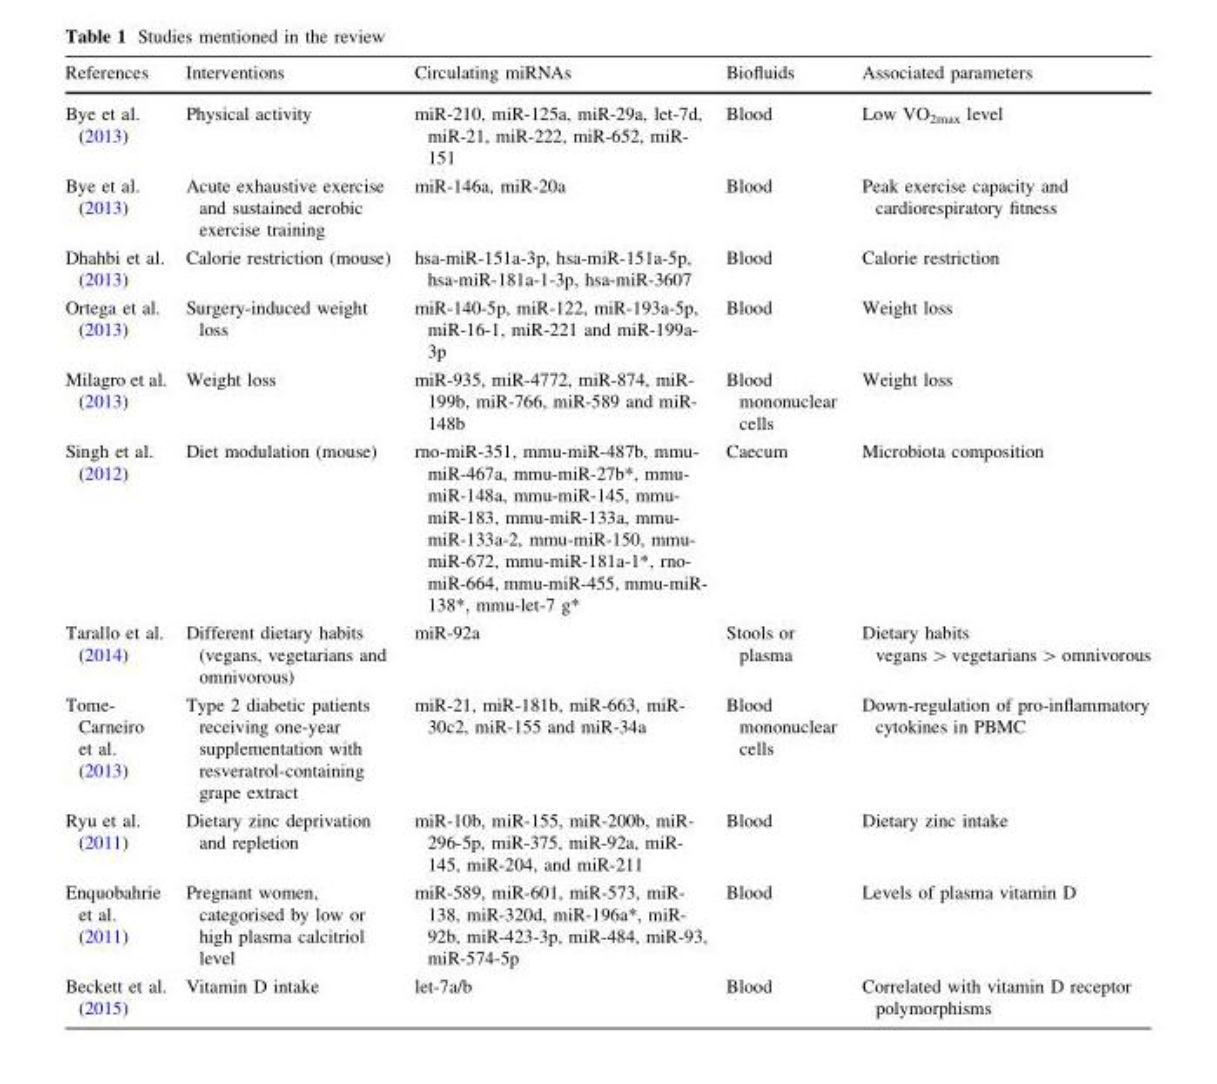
<table><thead><tr><td>References</td><td>Interventions</td><td>Circulating miRNAs</td><td>Biofluids</td><td>Associated parameters</td></tr></thead><tbody><tr><td>Bye et al. (2013)</td><td>Physical activity</td><td>miR-210, miR-125a, miR-29a, let-7d, miR-21, miR-222, miR-652, miR- 151</td><td>Blood</td><td>Low VO<sub>2max</sub> level</td></tr><tr><td>Bye et al. (2013)</td><td>Acute exhaustive exercise and sustained aerobic exercise training</td><td>miR-146a, miR-20a</td><td>Blood</td><td>Peak exercise capacity and cardiorespiratory fitness</td></tr><tr><td>Dhahbi et al. (2013)</td><td>Calorie restriction (mouse)</td><td>hsa-miR-151a-3p, hsa-miR-151a-5p, hsa-miR-181a-1-3p, hsa-miR-3607</td><td>Blood</td><td>Calorie restriction</td></tr><tr><td>Ortega et al. (2013)</td><td>Surgery-induced weight loss</td><td>miR-140-5p, miR-122, miR-193a-5p, miR-16-1, miR-221 and miR-199a- 3p</td><td>Blood</td><td>Weight loss</td></tr><tr><td>Milagro et al. (2013)</td><td>Weight loss</td><td>miR-935, miR-4772, miR-874, miR- 199b, miR-766, miR-589 and miR- 148b</td><td>Blood mononuclear cells</td><td>Weight loss</td></tr><tr><td>Singh et al. (2012)</td><td>Diet modulation (mouse)</td><td>rno-miR-351, mmu-miR-487b, mmu- miR-467a, mmu-miR-27b*, mmu- miR-148a, mmu-miR-145, mmu- miR-183, mmu-miR-133a, mmu- miR-133a-2, mmu-miR-150, mmu- miR-672, mmu-miR-181a-1*, rno- miR-664, mmu-miR-455, mmu-miR- 138*, mmu-let-7 g*</td><td>Caecum</td><td>Microbiota composition</td></tr><tr><td>Tarallo et al. (2014)</td><td>Different dietary habits (vegans, vegetarians and omnivorous)</td><td>miR-92a</td><td>Stools or plasma</td><td>Dietary habits vegans &gt; vegetarians &gt; omnivorous</td></tr><tr><td>Tome- Carneiro et al. (2013)</td><td>Type 2 diabetic patients receiving one-year supplementation with resveratrol-containing grape extract</td><td>miR-21, miR-181b, miR-663, miR- 30c2, miR-155 and miR-34a</td><td>Blood mononuclear cells</td><td>Down-regulation of pro-inflammatory cytokines in PBMC</td></tr><tr><td>Ryu et al. (2011)</td><td>Dietary zinc deprivation and repletion</td><td>miR-10b, miR-155, miR-200b, miR- 296-5p, miR-375, miR-92a, miR- 145, miR-204, and miR-211</td><td>Blood</td><td>Dietary zinc intake</td></tr><tr><td>Enquobahrie et al. (2011)</td><td>Pregnant women, categorised by low or high plasma calcitriol level</td><td>miR-589, miR-601, miR-573, miR- 138, miR-320d, miR-196a*, miR- 92b, miR-423-3p, miR-484, miR-93, miR-574-5p</td><td>Blood</td><td>Levels of plasma vitamin D</td></tr><tr><td>Beckett et al. (2015)</td><td>Vitamin D intake</td><td>let-7a/b</td><td>Blood</td><td>Correlated with vitamin D receptor polymorphisms</td></tr></tbody></table>